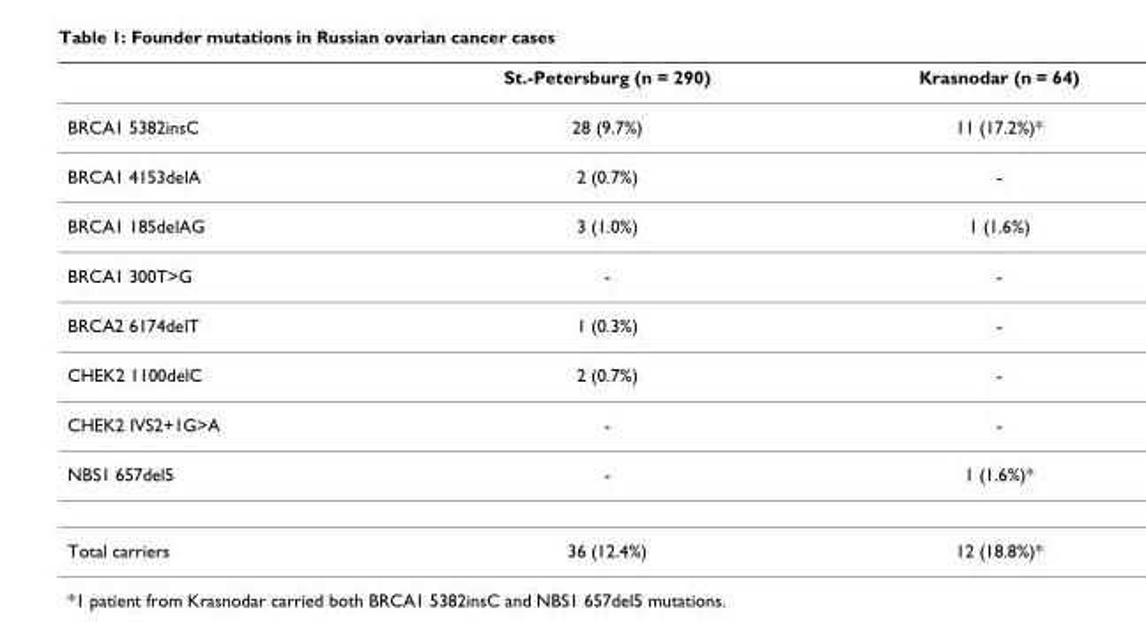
<table><thead><tr><td></td><td>St.-Petersburg (n = 290)</td><td>Krasnodar (n = 64)</td></tr></thead><tbody><tr><td>BRCA1 5382insC</td><td>28 (9.7%)</td><td>11 (17.2%)*</td></tr><tr><td>BRCA1 4153delA</td><td>2 (0.7%)</td><td>-</td></tr><tr><td>BRCA1 185delAG</td><td>3 (1.0%)</td><td>1 (1.6%)</td></tr><tr><td>BRCA1 300T&gt;G</td><td>-</td><td>-</td></tr><tr><td>BRCA2 6174delT</td><td>1 (0.3%)</td><td>-</td></tr><tr><td>CHEK2 1100delC</td><td>2 (0.7%)</td><td>-</td></tr><tr><td>CHEK2 IVS2+1G&gt;A</td><td>-</td><td>-</td></tr><tr><td>NBS1 657del5</td><td>-</td><td>1 (1.6%)*</td></tr><tr><td>Total carriers</td><td>36 (12.4%)</td><td>12 (18.8%)*</td></tr></tbody></table>